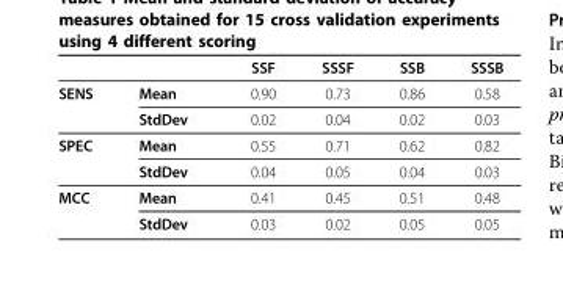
<table><thead><tr><td></td><td></td><td>SSF</td><td>SSSF</td><td>SSB</td><td>SSSB</td></tr></thead><tbody><tr><td rowspan="2">SENS</td><td>Mean</td><td>0.90</td><td>0.73</td><td>0.86</td><td>0.58</td></tr><tr><td>StdDev</td><td>0.02</td><td>0.04</td><td>0.02</td><td>0.03</td></tr><tr><td rowspan="2">SPEC</td><td>Mean</td><td>0.55</td><td>0.71</td><td>0.62</td><td>0.82</td></tr><tr><td>StdDev</td><td>0.04</td><td>0.05</td><td>0.04</td><td>0.03</td></tr><tr><td rowspan="2">MCC</td><td>Mean</td><td>0.41</td><td>0.45</td><td>0.51</td><td>0.48</td></tr><tr><td>StdDev</td><td>0.03</td><td>0.02</td><td>0.05</td><td>0.05</td></tr></tbody></table>